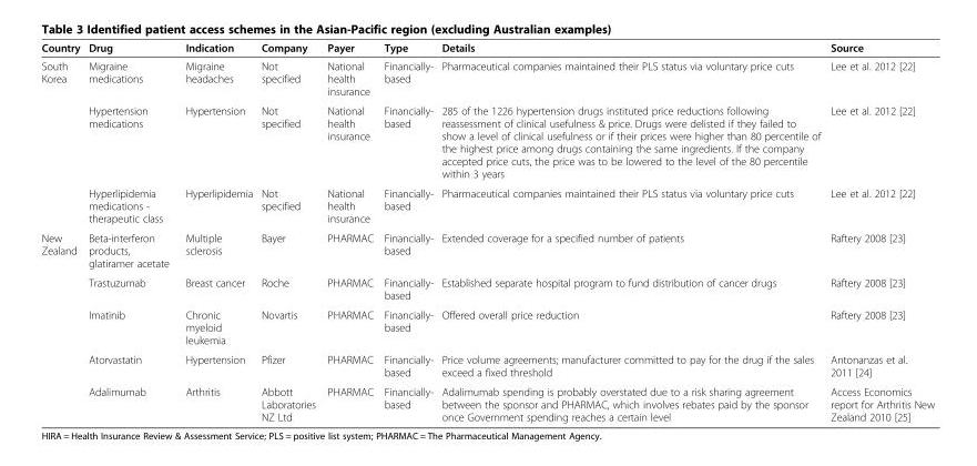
<table><thead><tr><td>Country</td><td>Drug</td><td>Indication</td><td>Company</td><td>Payer</td><td>Type</td><td>Details</td><td>Source</td></tr></thead><tbody><tr><td rowspan="3">South Korea</td><td>Migraine medications</td><td>Migraine headaches</td><td>Not specified</td><td>National health insurance</td><td>Financially- based</td><td>Pharmaceutical companies maintained their PLS status via voluntary price cuts</td><td>Lee et al. 2012 [22]</td></tr><tr><td>Hypertension medications</td><td>Hypertension</td><td>Not specified</td><td>National health insurance</td><td>Financially- based</td><td>285 of the 1226 hypertension drugs instituted price reductions following reassessment of clinical usefulness &amp; price. Drugs were delisted if they failed to show a level of clinical usefulness or if their prices were higher than 80 percentile of the highest price among drugs containing the same ingredients. If the company accepted price cuts, the price was to be lowered to the level of the 80 percentile within 3 years</td><td>Lee et al. 2012 [22]</td></tr><tr><td>Hyperlipidemia medications - therapeutic class</td><td>Hyperlipidemia</td><td>Not specified</td><td>National health insurance</td><td>Financially- based</td><td>Pharmaceutical companies maintained their PLS status via voluntary price cuts</td><td>Lee et al. 2012 [22]</td></tr><tr><td rowspan="5">New Zealand</td><td>Beta-interferon products, glatiramer acetate</td><td>Multiple sclerosis</td><td>Bayer</td><td>PHARMAC</td><td>Financially- based</td><td>Extended coverage for a specified number of patients</td><td>Raftery 2008 [23]</td></tr><tr><td>Trastuzumab</td><td>Breast cancer</td><td>Roche</td><td>PHARMAC</td><td>Financially- based</td><td>Established separate hospital program to fund distribution of cancer drugs</td><td>Raftery 2008 [23]</td></tr><tr><td>Imatinib</td><td>Chronic myeloid leukemia</td><td>Novartis</td><td>PHARMAC</td><td>Financially- based</td><td>Offered overall price reduction</td><td>Raftery 2008 [23]</td></tr><tr><td>Atorvastatin</td><td>Hypertension</td><td>Pfizer</td><td>PHARMAC</td><td>Financially- based</td><td>Price volume agreements; manufacturer committed to pay for the drug if the sales exceed a fixed threshold</td><td>Antonanzas et al. 2011 [24]</td></tr><tr><td>Adalimumab</td><td>Arthritis</td><td>Abbott Laboratories NZ Ltd</td><td>PHARMAC</td><td>Financially- based</td><td>Adalimumab spending is probably overstated due to a risk sharing agreement between the sponsor and PHARMAC, which involves rebates paid by the sponsor once Government spending reaches a certain level</td><td>Access Economics report for Arthritis New Zealand 2010 [25]</td></tr></tbody></table>